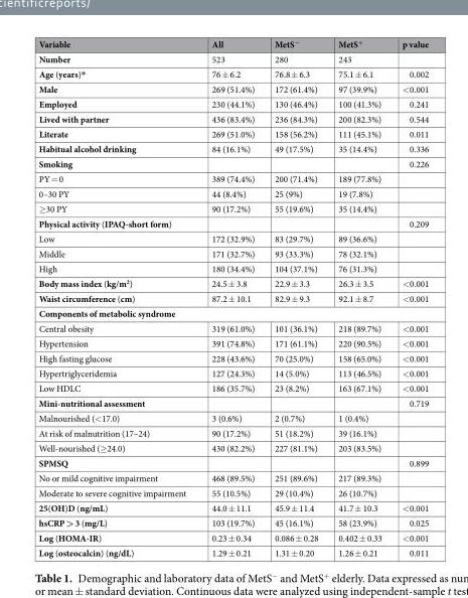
<table><thead><tr><td>Variable</td><td>All</td><td>MetS<sup>−</sup></td><td>MetS<sup>+</sup></td><td>p value</td></tr></thead><tbody><tr><td>Number</td><td>523</td><td>280</td><td>243</td><td></td></tr><tr><td>Age (years)*</td><td>76 ± 6.2</td><td>76.8 ± 6.3</td><td>75.1 ± 6.1</td><td>0.002</td></tr><tr><td>Male</td><td>269 (51.4%)</td><td>172 (61.4%)</td><td>97 (39.9%)</td><td>&lt;0.001</td></tr><tr><td>Employed</td><td>230 (44.1%)</td><td>130 (46.4%)</td><td>100 (41.3%)</td><td>0.241</td></tr><tr><td>Lived with partner</td><td>436 (83.4%)</td><td>236 (84.3%)</td><td>200 (82.3%)</td><td>0.544</td></tr><tr><td>Literate</td><td>269 (51.0%)</td><td>158 (56.2%)</td><td>111 (45.1%)</td><td>0.011</td></tr><tr><td>Habitual alcohol drinking</td><td>84 (16.1%)</td><td>49 (17.5%)</td><td>35 (14.4%)</td><td>0.336</td></tr><tr><td>Smoking</td><td></td><td></td><td></td><td>0.226</td></tr><tr><td>PY = 0</td><td>389 (74.4%)</td><td>200 (71.4%)</td><td>189 (77.8%)</td><td></td></tr><tr><td>0–30 PY</td><td>44 (8.4%)</td><td>25 (9%)</td><td>19 (7.8%)</td><td></td></tr><tr><td>≥30 PY</td><td>90 (17.2%)</td><td>55 (19.6%)</td><td>35 (14.4%)</td><td></td></tr><tr><td>Physical activity (IPAQ-short form)</td><td></td><td></td><td></td><td>0.209</td></tr><tr><td>Low</td><td>172 (32.9%)</td><td>83 (29.7%)</td><td>89 (36.6%)</td><td></td></tr><tr><td>Middle</td><td>171 (32.7%)</td><td>93 (33.3%)</td><td>78 (32.1%)</td><td></td></tr><tr><td>High</td><td>180 (34.4%)</td><td>104 (37.1%)</td><td>76 (31.3%)</td><td></td></tr><tr><td>Body mass index (kg/m<sup>2</sup>)</td><td>24.5 ± 3.8</td><td>22.9 ± 3.3</td><td>26.3 ± 3.5</td><td>&lt;0.001</td></tr><tr><td>Waist circumference (cm)</td><td>87.2 ± 10.1</td><td>82.9 ± 9.3</td><td>92.1 ± 8.7</td><td>&lt;0.001</td></tr><tr><td colspan="5">Components of metabolic syndrome</td></tr><tr><td>Central obesity</td><td>319 (61.0%)</td><td>101 (36.1%)</td><td>218 (89.7%)</td><td>&lt;0.001</td></tr><tr><td>Hypertension</td><td>391 (74.8%)</td><td>171 (61.1%)</td><td>220 (90.5%)</td><td>&lt;0.001</td></tr><tr><td>High fasting glucose</td><td>228 (43.6%)</td><td>70 (25.0%)</td><td>158 (65.0%)</td><td>&lt;0.001</td></tr><tr><td>Hypertriglyceridemia</td><td>127 (24.3%)</td><td>14 (5.0%)</td><td>113 (46.5%)</td><td>&lt;0.001</td></tr><tr><td>Low HDLC</td><td>186 (35.7%)</td><td>23 (8.2%)</td><td>163 (67.1%)</td><td>&lt;0.001</td></tr><tr><td>Mini-nutritional assessment</td><td></td><td></td><td></td><td>0.719</td></tr><tr><td>Malnourished (&lt;17.0)</td><td>3 (0.6%)</td><td>2 (0.7%)</td><td>1 (0.4%)</td><td></td></tr><tr><td>At risk of malnutrition (17–24)</td><td>90 (17.2%)</td><td>51 (18.2%)</td><td>39 (16.1%)</td><td></td></tr><tr><td>Well-nourished (≥24.0)</td><td>430 (82.2%)</td><td>227 (81.1%)</td><td>203 (83.5%)</td><td></td></tr><tr><td>SPMSQ</td><td></td><td></td><td></td><td>0.899</td></tr><tr><td>No or mild cognitive impairment</td><td>468 (89.5%)</td><td>251 (89.6%)</td><td>217 (89.3%)</td><td></td></tr><tr><td>Moderate to severe cognitive impairment</td><td>55 (10.5%)</td><td>29 (10.4%)</td><td>26 (10.7%)</td><td></td></tr><tr><td>25(OH)D (ng/mL)</td><td>44.0 ± 11.1</td><td>45.9 ± 11.4</td><td>41.7 ± 10.3</td><td>&lt;0.001</td></tr><tr><td>hsCRP &gt; 3 (mg/L)</td><td>103 (19.7%)</td><td>45 (16.1%)</td><td>58 (23.9%)</td><td>0.025</td></tr><tr><td>Log (HOMA-IR)</td><td>0.23 ± 0.34</td><td>0.086 ± 0.28</td><td>0.402 ± 0.33</td><td>&lt;0.001</td></tr><tr><td>Log (osteocalcin) (ng/dL)</td><td>1.29 ± 0.21</td><td>1.31 ± 0.20</td><td>1.26 ± 0.21</td><td>0.011</td></tr></tbody></table>